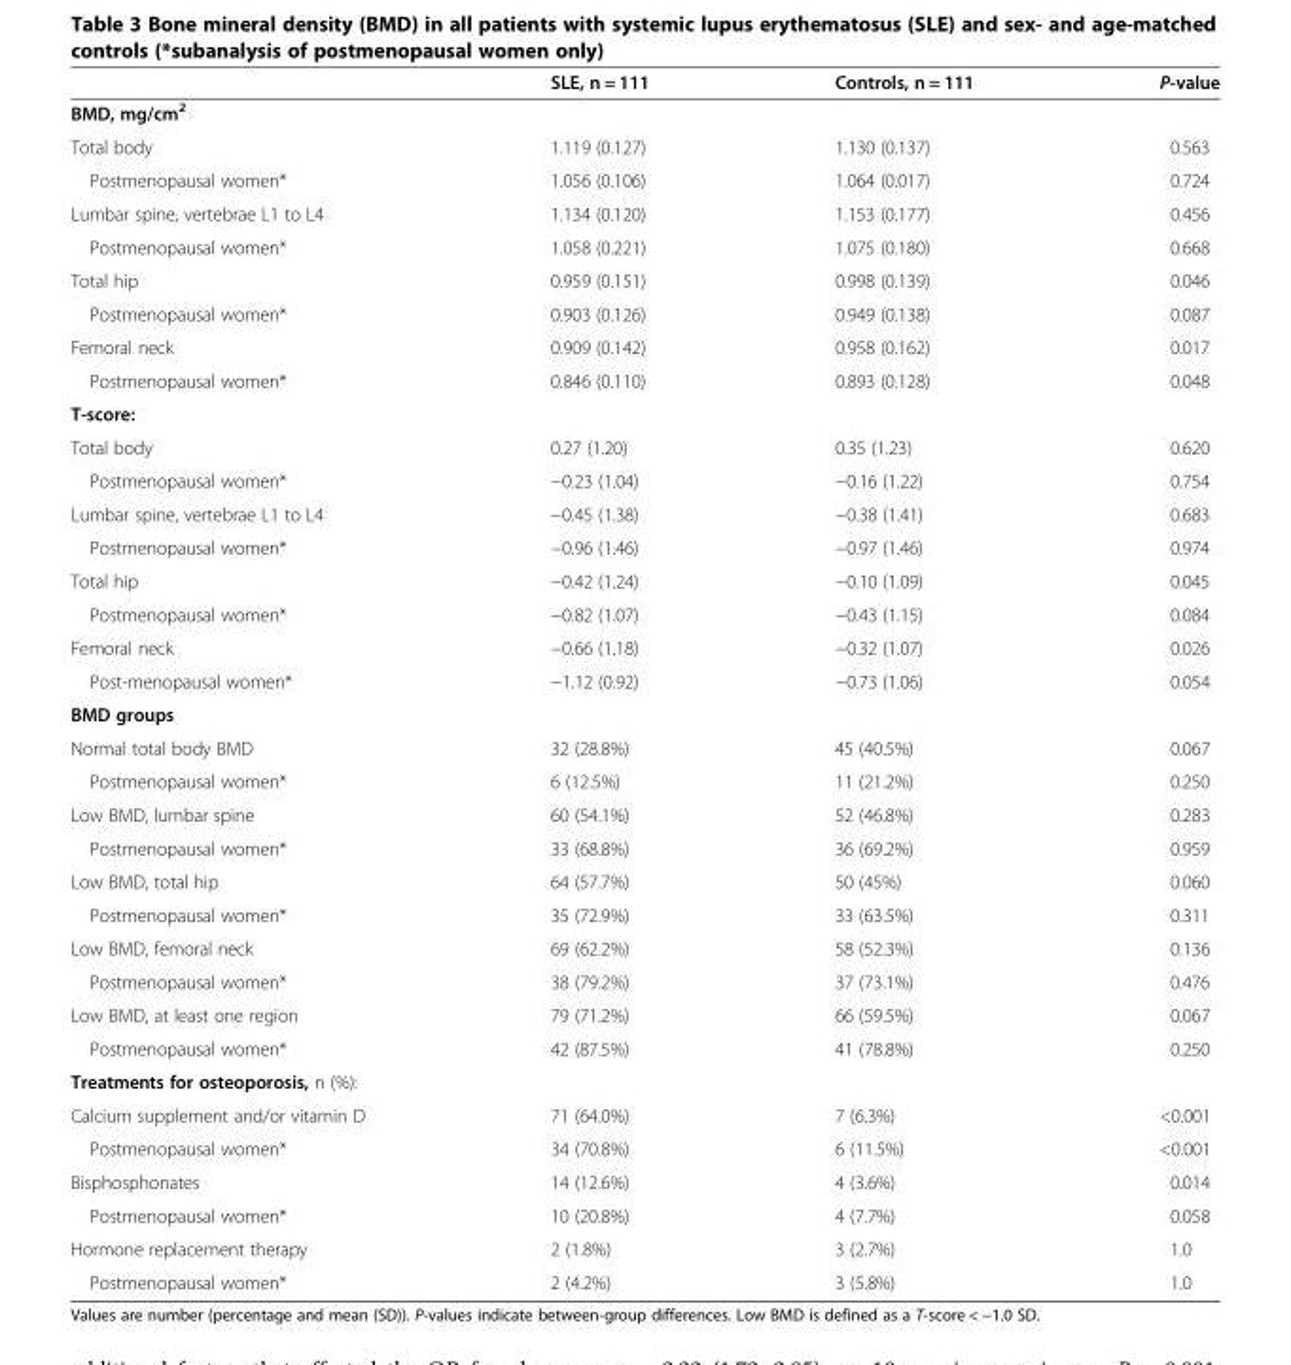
<table><thead><tr><td></td><td>SLE, n = 111</td><td>Controls, n = 111</td><td>P-value</td></tr></thead><tbody><tr><td colspan="4">BMD, mg/cm<sup>2</sup></td></tr><tr><td>Total body</td><td>1.119 (0.127)</td><td>1.130 (0.137)</td><td>0.563</td></tr><tr><td>Postmenopausal women*</td><td>1.056 (0.106)</td><td>1.064 (0.017)</td><td>0.724</td></tr><tr><td>Lumbar spine, vertebrae L1 to L4</td><td>1.134 (0.120)</td><td>1.153 (0.177)</td><td>0.456</td></tr><tr><td>Postmenopausal women*</td><td>1.058 (0.221)</td><td>1.075 (0.180)</td><td>0.668</td></tr><tr><td>Total hip</td><td>0.959 (0.151)</td><td>0.998 (0.139)</td><td>0.046</td></tr><tr><td>Postmenopausal women*</td><td>0.903 (0.126)</td><td>0.949 (0.138)</td><td>0.087</td></tr><tr><td>Femoral neck</td><td>0.909 (0.142)</td><td>0.958 (0.162)</td><td>0.017</td></tr><tr><td>Postmenopausal women*</td><td>0.846 (0.110)</td><td>0.893 (0.128)</td><td>0.048</td></tr><tr><td colspan="4">T-score:</td></tr><tr><td>Total body</td><td>0.27 (1.20)</td><td>0.35 (1.23)</td><td>0.620</td></tr><tr><td>Postmenopausal women*</td><td>−0.23 (1.04)</td><td>−0.16 (1.22)</td><td>0.754</td></tr><tr><td>Lumbar spine, vertebrae L1 to L4</td><td>−0.45 (1.38)</td><td>−0.38 (1.41)</td><td>0.683</td></tr><tr><td>Postmenopausal women*</td><td>−0.96 (1.46)</td><td>−0.97 (1.46)</td><td>0.974</td></tr><tr><td>Total hip</td><td>−0.42 (1.24)</td><td>−0.10 (1.09)</td><td>0.045</td></tr><tr><td>Postmenopausal women*</td><td>−0.82 (1.07)</td><td>−0.43 (1.15)</td><td>0.084</td></tr><tr><td>Femoral neck</td><td>−0.66 (1.18)</td><td>−0.32 (1.07)</td><td>0.026</td></tr><tr><td>Post-menopausal women*</td><td>−1.12 (0.92)</td><td>−0.73 (1.06)</td><td>0.054</td></tr><tr><td colspan="4">BMD groups</td></tr><tr><td>Normal total body BMD</td><td>32 (28.8%)</td><td>45 (40.5%)</td><td>0.067</td></tr><tr><td>Postmenopausal women*</td><td>6 (12.5%)</td><td>11 (21.2%)</td><td>0.250</td></tr><tr><td>Low BMD, lumbar spine</td><td>60 (54.1%)</td><td>52 (46.8%)</td><td>0.283</td></tr><tr><td>Postmenopausal women*</td><td>33 (68.8%)</td><td>36 (69.2%)</td><td>0.959</td></tr><tr><td>Low BMD, total hip</td><td>64 (57.7%)</td><td>50 (45%)</td><td>0.060</td></tr><tr><td>Postmenopausal women*</td><td>35 (72.9%)</td><td>33 (63.5%)</td><td>0.311</td></tr><tr><td>Low BMD, femoral neck</td><td>69 (62.2%)</td><td>58 (52.3%)</td><td>0.136</td></tr><tr><td>Postmenopausal women*</td><td>38 (79.2%)</td><td>37 (73.1%)</td><td>0.476</td></tr><tr><td>Low BMD, at least one region</td><td>79 (71.2%)</td><td>66 (59.5%)</td><td>0.067</td></tr><tr><td>Postmenopausal women*</td><td>42 (87.5%)</td><td>41 (78.8%)</td><td>0.250</td></tr><tr><td colspan="4">Treatments for osteoporosis, n (%):</td></tr><tr><td>Calcium supplement and/or vitamin D</td><td>71 (64.0%)</td><td>7 (6.3%)</td><td>&lt;0.001</td></tr><tr><td>Postmenopausal women*</td><td>34 (70.8%)</td><td>6 (11.5%)</td><td>&lt;0.001</td></tr><tr><td>Bisphosphonates</td><td>14 (12.6%)</td><td>4 (3.6%)</td><td>0.014</td></tr><tr><td>Postmenopausal women*</td><td>10 (20.8%)</td><td>4 (7.7%)</td><td>0.058</td></tr><tr><td>Hormone replacement therapy</td><td>2 (1.8%)</td><td>3 (2.7%)</td><td>1.0</td></tr><tr><td>Postmenopausal women*</td><td>2 (4.2%)</td><td>3 (5.8%)</td><td>1.0</td></tr></tbody></table>